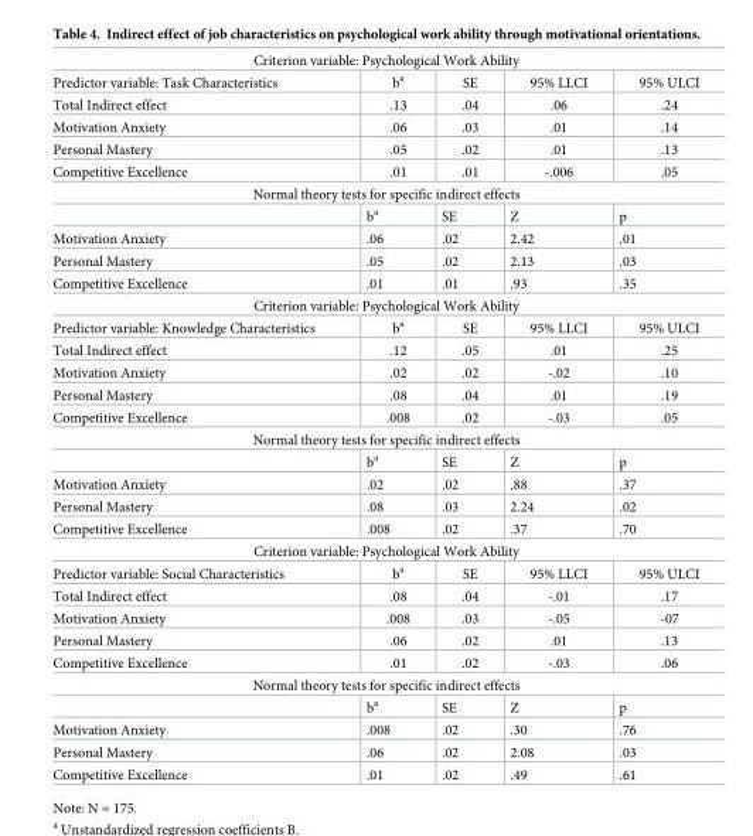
<table><tbody><tr><td colspan="5">Criterion variable: Psychological Work Ability</td></tr><tr><td>Predictor variable: Task Characteristics</td><td>b<sup>a</sup></td><td>SE</td><td>95% LLCI</td><td>95% ULCI</td></tr><tr><td>Total Indirect effect</td><td>.13</td><td>.04</td><td>.06</td><td>.24</td></tr><tr><td>Motivation Anxiety</td><td>.06</td><td>.03</td><td>.01</td><td>.14</td></tr><tr><td>Personal Mastery</td><td>.05</td><td>.02</td><td>.01</td><td>.13</td></tr><tr><td>Competitive Excellence</td><td>.01</td><td>.01</td><td>-.006</td><td>.05</td></tr><tr><td colspan="5">Normal theory tests for specific indirect effects</td></tr><tr><td></td><td>b<sup>a</sup></td><td>SE</td><td>Z</td><td>p</td></tr><tr><td>Motivation Anxiety</td><td>.06</td><td>.02</td><td>2.42</td><td>.01</td></tr><tr><td>Personal Mastery</td><td>.05</td><td>.02</td><td>2.13</td><td>.03</td></tr><tr><td>Competitive Excellence</td><td>.01</td><td>.01</td><td>.93</td><td>.35</td></tr><tr><td colspan="5">Criterion variable: Psychological Work Ability</td></tr><tr><td>Predictor variable: Knowledge Characteristics</td><td>b<sup>a</sup></td><td>SE</td><td>95% LLCI</td><td>95% ULCI</td></tr><tr><td>Total Indirect effect</td><td>.12</td><td>.05</td><td>.01</td><td>.25</td></tr><tr><td>Motivation Anxiety</td><td>.02</td><td>.02</td><td>-.02</td><td>.10</td></tr><tr><td>Personal Mastery</td><td>.08</td><td>.04</td><td>.01</td><td>.19</td></tr><tr><td>Competitive Excellence</td><td>.008</td><td>.02</td><td>-.03</td><td>.05</td></tr><tr><td colspan="5">Normal theory tests for specific indirect effects</td></tr><tr><td></td><td>b<sup>a</sup></td><td>SE</td><td>Z</td><td>p</td></tr><tr><td>Motivation Anxiety</td><td>.02</td><td>.02</td><td>.88</td><td>.37</td></tr><tr><td>Personal Mastery</td><td>.08</td><td>.03</td><td>2.24</td><td>.02</td></tr><tr><td>Competitive Excellence</td><td>.008</td><td>.02</td><td>.37</td><td>.70</td></tr><tr><td colspan="5">Criterion variable: Psychological Work Ability</td></tr><tr><td>Predictor variable: Social Characteristics</td><td>b<sup>a</sup></td><td>SE</td><td>95% LLCI</td><td>95% ULCI</td></tr><tr><td>Total Indirect effect</td><td>.08</td><td>.04</td><td>-.01</td><td>.17</td></tr><tr><td>Motivation Anxiety</td><td>.008</td><td>.03</td><td>-.05</td><td>-07</td></tr><tr><td>Personal Mastery</td><td>.06</td><td>.02</td><td>.01</td><td>.13</td></tr><tr><td>Competitive Excellence</td><td>.01</td><td>.02</td><td>-.03</td><td>.06</td></tr><tr><td colspan="5">Normal theory tests for specific indirect effects</td></tr><tr><td></td><td>b<sup>a</sup></td><td>SE</td><td>Z</td><td>p</td></tr><tr><td>Motivation Anxiety</td><td>.008</td><td>.02</td><td>.30</td><td>.76</td></tr><tr><td>Personal Mastery</td><td>.06</td><td>.02</td><td>2.08</td><td>.03</td></tr><tr><td>Competitive Excellence</td><td>.01</td><td>.02</td><td>.49</td><td>.61</td></tr></tbody></table>